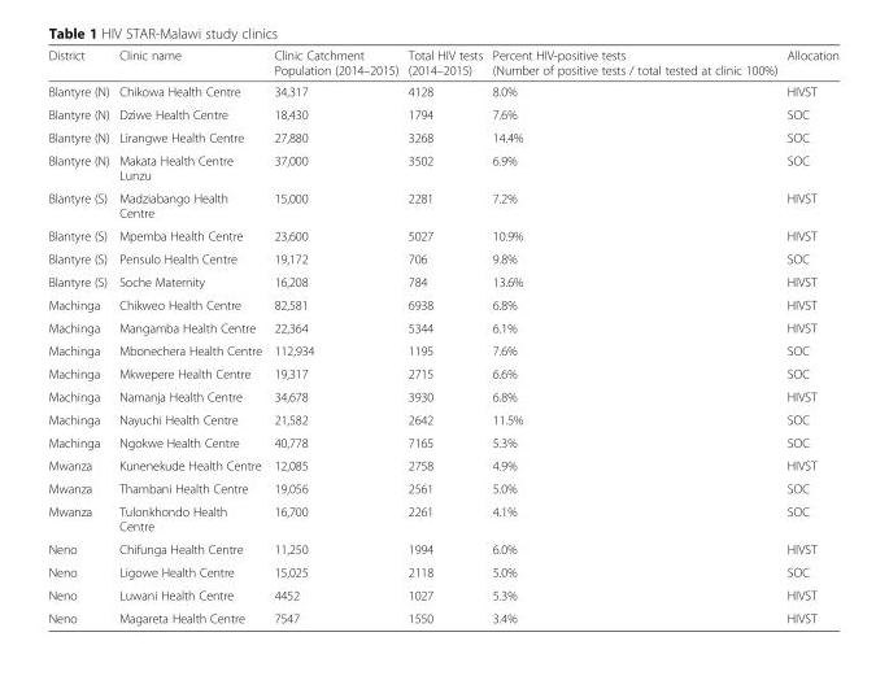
<table><thead><tr><td>District</td><td>Clinic name</td><td>Clinic Catchment Population (2014–2015)</td><td>Total HIV tests (2014–2015)</td><td>Percent HIV-positive tests (Number of positive tests / total tested at clinic 100%)</td><td>Allocation</td></tr></thead><tbody><tr><td>Blantyre (N)</td><td>Chikowa Health Centre</td><td>34,317</td><td>4128</td><td>8.0%</td><td>HIVST</td></tr><tr><td>Blantyre (N)</td><td>Dziwe Health Centre</td><td>18,430</td><td>1794</td><td>7.6%</td><td>SOC</td></tr><tr><td>Blantyre (N)</td><td>Lirangwe Health Centre</td><td>27,880</td><td>3268</td><td>14.4%</td><td>SOC</td></tr><tr><td>Blantyre (N)</td><td>Makata Health Centre Lunzu</td><td>37,000</td><td>3502</td><td>6.9%</td><td>SOC</td></tr><tr><td>Blantyre (S)</td><td>Madziabango Health Centre</td><td>15,000</td><td>2281</td><td>7.2%</td><td>HIVST</td></tr><tr><td>Blantyre (S)</td><td>Mpemba Health Centre</td><td>23,600</td><td>5027</td><td>10.9%</td><td>HIVST</td></tr><tr><td>Blantyre (S)</td><td>Pensulo Health Centre</td><td>19,172</td><td>706</td><td>9.8%</td><td>SOC</td></tr><tr><td>Blantyre (S)</td><td>Soche Maternity</td><td>16,208</td><td>784</td><td>13.6%</td><td>HIVST</td></tr><tr><td>Machinga</td><td>Chikweo Health Centre</td><td>82,581</td><td>6938</td><td>6.8%</td><td>HIVST</td></tr><tr><td>Machinga</td><td>Mangamba Health Centre</td><td>22,364</td><td>5344</td><td>6.1%</td><td>HIVST</td></tr><tr><td>Machinga</td><td>Mbonechera Health Centre</td><td>112,934</td><td>1195</td><td>7.6%</td><td>SOC</td></tr><tr><td>Machinga</td><td>Mkwepere Health Centre</td><td>19,317</td><td>2715</td><td>6.6%</td><td>SOC</td></tr><tr><td>Machinga</td><td>Namanja Health Centre</td><td>34,678</td><td>3930</td><td>6.8%</td><td>HIVST</td></tr><tr><td>Machinga</td><td>Nayuchi Health Centre</td><td>21,582</td><td>2642</td><td>11.5%</td><td>SOC</td></tr><tr><td>Machinga</td><td>Ngokwe Health Centre</td><td>40,778</td><td>7165</td><td>5.3%</td><td>SOC</td></tr><tr><td>Mwanza</td><td>Kunenekude Health Centre</td><td>12,085</td><td>2758</td><td>4.9%</td><td>HIVST</td></tr><tr><td>Mwanza</td><td>Thambani Health Centre</td><td>19,056</td><td>2561</td><td>5.0%</td><td>SOC</td></tr><tr><td>Mwanza</td><td>Tulonkhondo Health Centre</td><td>16,700</td><td>2261</td><td>4.1%</td><td>SOC</td></tr><tr><td>Neno</td><td>Chifunga Health Centre</td><td>11,250</td><td>1994</td><td>6.0%</td><td>HIVST</td></tr><tr><td>Neno</td><td>Ligowe Health Centre</td><td>15,025</td><td>2118</td><td>5.0%</td><td>SOC</td></tr><tr><td>Neno</td><td>Luwani Health Centre</td><td>4452</td><td>1027</td><td>5.3%</td><td>HIVST</td></tr><tr><td>Neno</td><td>Magareta Health Centre</td><td>7547</td><td>1550</td><td>3.4%</td><td>HIVST</td></tr></tbody></table>